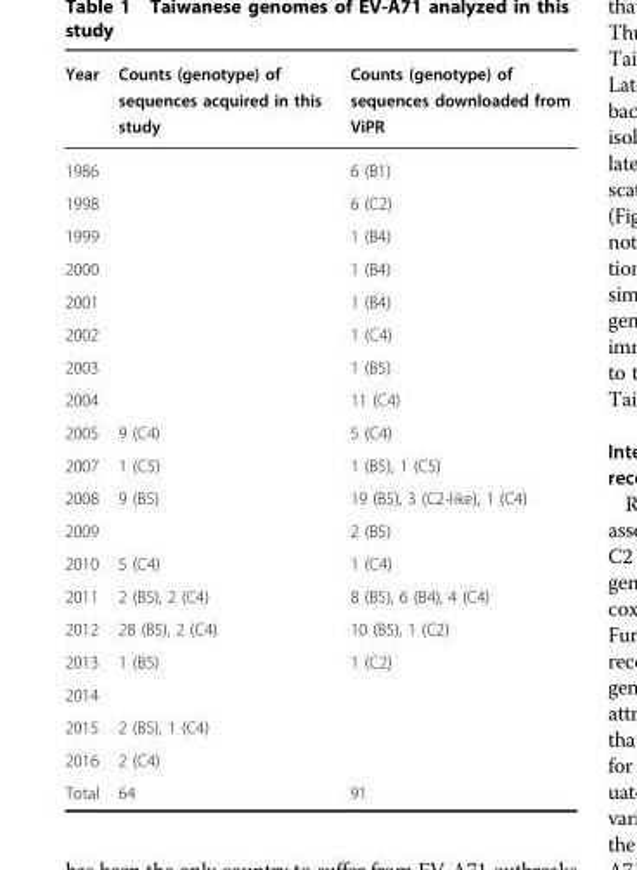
<table><thead><tr><td>Year</td><td>Counts (genotype) of sequences acquired in this study</td><td>Counts (genotype) of sequences downloaded from ViPR</td></tr></thead><tbody><tr><td>1986</td><td></td><td>6 (B1)</td></tr><tr><td>1998</td><td></td><td>6 (C2)</td></tr><tr><td>1999</td><td></td><td>1 (B4)</td></tr><tr><td>2000</td><td></td><td>1 (B4)</td></tr><tr><td>2001</td><td></td><td>1 (B4)</td></tr><tr><td>2002</td><td></td><td>1 (C4)</td></tr><tr><td>2003</td><td></td><td>1 (B5)</td></tr><tr><td>2004</td><td></td><td>11 (C4)</td></tr><tr><td>2005</td><td>9 (C4)</td><td>5 (C4)</td></tr><tr><td>2007</td><td>1 (C5)</td><td>1 (B5), 1 (C5)</td></tr><tr><td>2008</td><td>9 (B5)</td><td>19 (B5), 3 (C2-like), 1 (C4)</td></tr><tr><td>2009</td><td></td><td>2 (B5)</td></tr><tr><td>2010</td><td>5 (C4)</td><td>1 (C4)</td></tr><tr><td>2011</td><td>2 (B5), 2 (C4)</td><td>8 (B5), 6 (B4), 4 (C4)</td></tr><tr><td>2012</td><td>28 (B5), 2 (C4)</td><td>10 (B5), 1 (C2)</td></tr><tr><td>2013</td><td>1 (B5)</td><td>1 (C2)</td></tr><tr><td colspan="3">2014</td></tr><tr><td>2015</td><td>2 (B5), 1 (C4)</td><td></td></tr><tr><td>2016</td><td>2 (C4)</td><td></td></tr><tr><td>Total</td><td>64</td><td>91</td></tr></tbody></table>